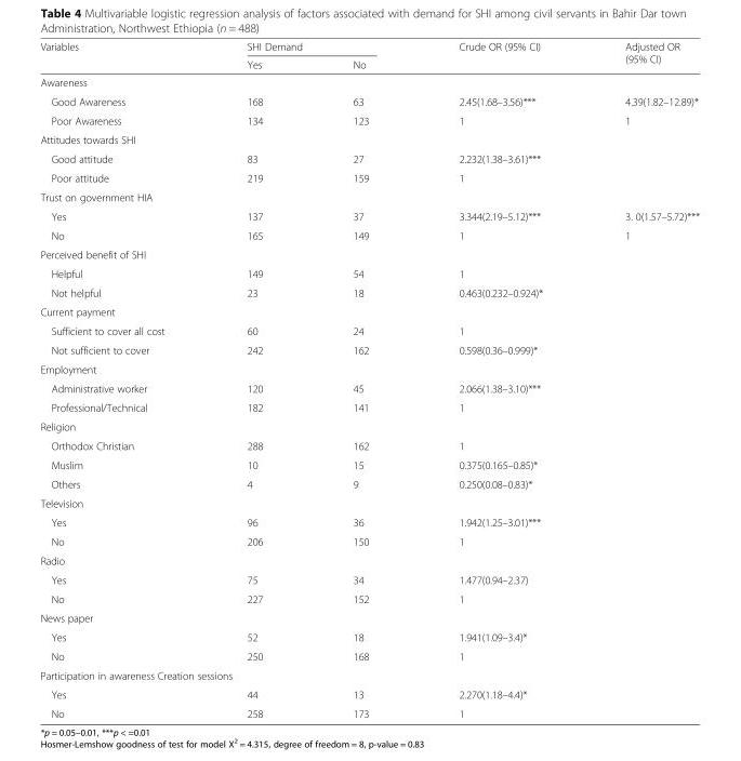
<table><thead><tr><td rowspan="2">Variables</td><td colspan="2">SHI Demand</td><td rowspan="2">Crude OR (95% CI)</td><td rowspan="2">Adjusted OR (95% CI)</td></tr><tr><td>Yes</td><td>No</td></tr></thead><tbody><tr><td colspan="5">Awareness</td></tr><tr><td>Good Awareness</td><td>168</td><td>63</td><td>2.45(1.68–3.56)***</td><td>4.39(1.82–12.89)*</td></tr><tr><td>Poor Awareness</td><td>134</td><td>123</td><td>1</td><td>1</td></tr><tr><td colspan="5">Attitudes towards SHI</td></tr><tr><td>Good attitude</td><td>83</td><td>27</td><td>2.232(1.38–3.61)***</td><td rowspan="2"></td></tr><tr><td>Poor attitude</td><td>219</td><td>159</td><td>1</td></tr><tr><td colspan="5">Trust on government HIA</td></tr><tr><td>Yes</td><td>137</td><td>37</td><td>3.344(2.19–5.12)***</td><td>3. 0(1.57–5.72)***</td></tr><tr><td>No</td><td>165</td><td>149</td><td>1</td><td>1</td></tr><tr><td colspan="5">Perceived benefit of SHI</td></tr><tr><td>Helpful</td><td>149</td><td>54</td><td>1</td><td rowspan="2"></td></tr><tr><td>Not helpful</td><td>23</td><td>18</td><td>0.463(0.232–0.924)*</td></tr><tr><td colspan="5">Current payment</td></tr><tr><td>Sufficient to cover all cost</td><td>60</td><td>24</td><td>1</td><td rowspan="2"></td></tr><tr><td>Not sufficient to cover</td><td>242</td><td>162</td><td>0.598(0.36–0.999)*</td></tr><tr><td colspan="5">Employment</td></tr><tr><td>Administrative worker</td><td>120</td><td>45</td><td>2.066(1.38–3.10)***</td><td rowspan="2"></td></tr><tr><td>Professional/Technical</td><td>182</td><td>141</td><td>1</td></tr><tr><td colspan="5">Religion</td></tr><tr><td>Orthodox Christian</td><td>288</td><td>162</td><td>1</td><td rowspan="3"></td></tr><tr><td>Muslim</td><td>10</td><td>15</td><td>0.375(0.165–0.85)*</td></tr><tr><td>Others</td><td>4</td><td>9</td><td>0.250(0.08–0.83)*</td></tr><tr><td colspan="5">Television</td></tr><tr><td>Yes</td><td>96</td><td>36</td><td>1.942(1.25–3.01)***</td><td rowspan="2"></td></tr><tr><td>No</td><td>206</td><td>150</td><td>1</td></tr><tr><td colspan="5">Radio</td></tr><tr><td>Yes</td><td>75</td><td>34</td><td>1.477(0.94–2.37)</td><td rowspan="2"></td></tr><tr><td>No</td><td>227</td><td>152</td><td>1</td></tr><tr><td colspan="5">News paper</td></tr><tr><td>Yes</td><td>52</td><td>18</td><td>1.941(1.09–3.4)*</td><td rowspan="2"></td></tr><tr><td>No</td><td>250</td><td>168</td><td>1</td></tr><tr><td colspan="5">Participation in awareness Creation sessions</td></tr><tr><td>Yes</td><td>44</td><td>13</td><td>2.270(1.18–4.4)*</td><td rowspan="2"></td></tr><tr><td>No</td><td>258</td><td>173</td><td>1</td></tr></tbody></table>